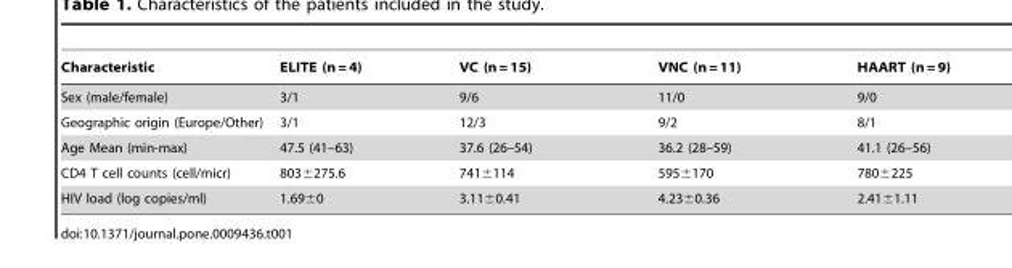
<table><thead><tr><td>Characteristic</td><td>ELITE (n = 4)</td><td>VC (n = 15)</td><td>VNC (n = 11)</td><td>HAART (n = 9)</td></tr></thead><tbody><tr><td>Sex (male/female)</td><td>3/1</td><td>9/6</td><td>11/0</td><td>9/0</td></tr><tr><td>Geographic origin (Europe/Other)</td><td>3/1</td><td>12/3</td><td>9/2</td><td>8/1</td></tr><tr><td>Age Mean (min-max)</td><td>47.5 (41–63)</td><td>37.6 (26–54)</td><td>36.2 (28–59)</td><td>41.1 (26–56)</td></tr><tr><td>CD4 T cell counts (cell/micr)</td><td>803±275.6</td><td>741±114</td><td>595±170</td><td>780±225</td></tr><tr><td>HIV load (log copies/ml)</td><td>1.69±0</td><td>3.11±0.41</td><td>4.23±0.36</td><td>2.41±1.11</td></tr></tbody></table>